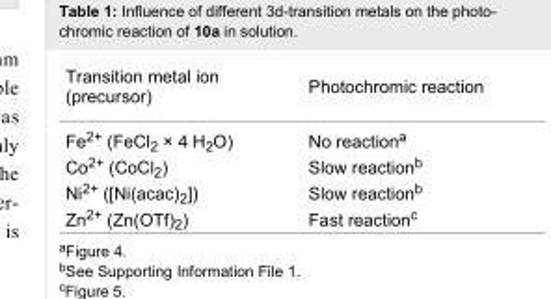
<table><tbody><tr><td>Transition metal ion (precursor)</td><td>Photochromic reaction</td></tr><tr><td>Fe<sup>2+</sup> (FeCl<sub>2</sub> × 4 H<sub>2</sub>O)</td><td>No reaction<sup>a</sup></td></tr><tr><td>Co<sup>2+</sup> (CoCl<sub>2</sub>)</td><td>Slow reaction<sup>b</sup></td></tr><tr><td>Ni<sup>2+</sup> ([Ni(acac)<sub>2</sub>])</td><td>Slow reaction<sup>b</sup></td></tr><tr><td>Zn<sup>2+</sup> (Zn(OTf)<sub>2</sub>)</td><td>Fast reaction<sup>c</sup></td></tr></tbody></table>